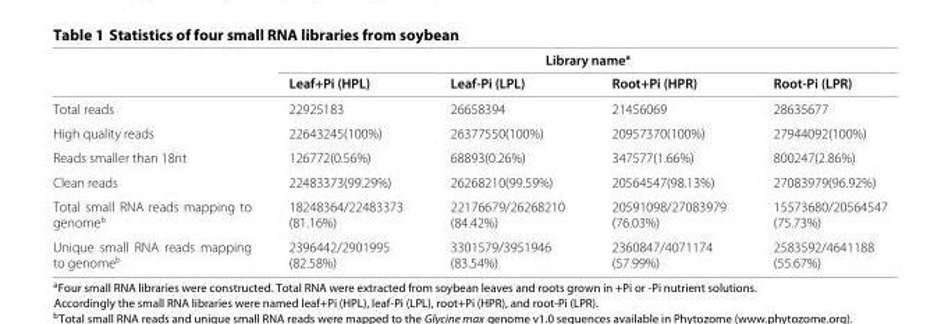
<table><thead><tr><td rowspan="2"></td><td colspan="4">Library name<sup>a</sup></td></tr><tr><td>Leaf+Pi (HPL)</td><td>Leaf-Pi (LPL)</td><td>Root+Pi (HPR)</td><td>Root-Pi (LPR)</td></tr></thead><tbody><tr><td>Total reads</td><td>22925183</td><td>26658394</td><td>21456069</td><td>28635677</td></tr><tr><td>High quality reads</td><td>22643245(100%)</td><td>26377550(100%)</td><td>20957370(100%)</td><td>27944092(100%)</td></tr><tr><td>Reads smaller than 18nt</td><td>126772(0.56%)</td><td>68893(0.26%)</td><td>347577(1.66%)</td><td>800247(2.86%)</td></tr><tr><td>Clean reads</td><td>22483373(99.29%)</td><td>26268210(99.59%)</td><td>20564547(98.13%)</td><td>27083979(96.92%)</td></tr><tr><td>Total small RNA reads mapping to genome<sup>b</sup></td><td>18248364/22483373 (81.16%)</td><td>22176679/26268210 (84.42%)</td><td>20591098/27083979 (76.03%)</td><td>15573680/20564547 (75.73%)</td></tr><tr><td>Unique small RNA reads mapping to genome<sup>b</sup></td><td>2396442/2901995 (82.58%)</td><td>3301579/3951946 (83.54%)</td><td>2360847/4071174 (57.99%)</td><td>2583592/4641188 (55.67%)</td></tr></tbody></table>